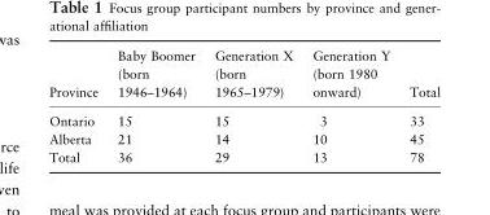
<table><thead><tr><td>Province</td><td>Baby Boomer (born 1946–1964)</td><td>Generation X (born 1965–1979)</td><td>Generation Y (born 1980 onward)</td><td>Total</td></tr></thead><tbody><tr><td>Ontario</td><td>15</td><td>15</td><td>3</td><td>33</td></tr><tr><td>Alberta</td><td>21</td><td>14</td><td>10</td><td>45</td></tr><tr><td>Total</td><td>36</td><td>29</td><td>13</td><td>78</td></tr></tbody></table>